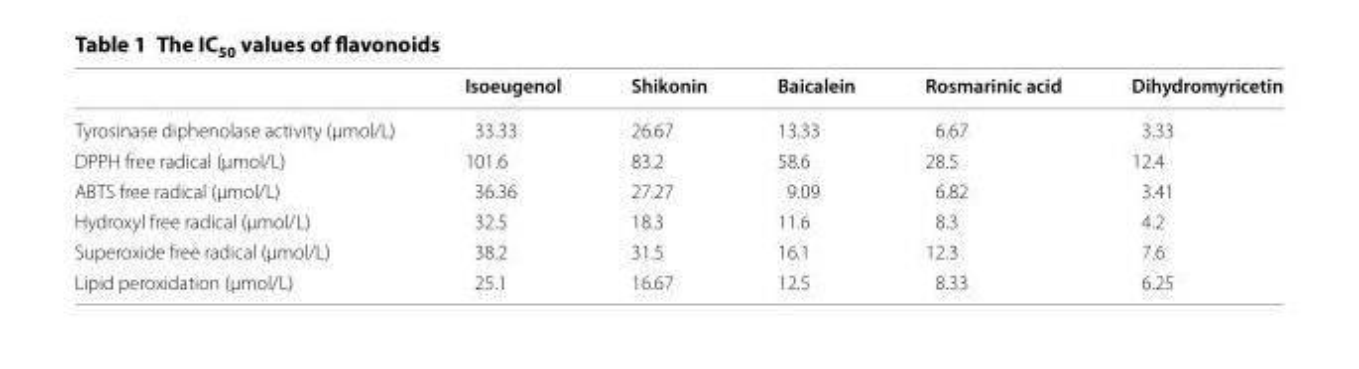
<table><thead><tr><td></td><td>Isoeugenol</td><td>Shikonin</td><td>Baicalein</td><td>Rosmarinic acid</td><td>Dihydromyricetin</td></tr></thead><tbody><tr><td>Tyrosinase diphenolase activity (μmol/L)</td><td>33.33</td><td>26.67</td><td>13.33</td><td>6.67</td><td>3.33</td></tr><tr><td>DPPH free radical (μmol/L)</td><td>101.6</td><td>83.2</td><td>58.6</td><td>28.5</td><td>12.4</td></tr><tr><td>ABTS free radical (μmol/L)</td><td>36.36</td><td>27.27</td><td>9.09</td><td>6.82</td><td>3.41</td></tr><tr><td>Hydroxyl free radical (μmol/L)</td><td>32.5</td><td>18.3</td><td>11.6</td><td>8.3</td><td>4.2</td></tr><tr><td>Superoxide free radical (μmol/L)</td><td>38.2</td><td>31.5</td><td>16.1</td><td>12.3</td><td>7.6</td></tr><tr><td>Lipid peroxidation (μmol/L)</td><td>25.1</td><td>16.67</td><td>12.5</td><td>8.33</td><td>6.25</td></tr></tbody></table>